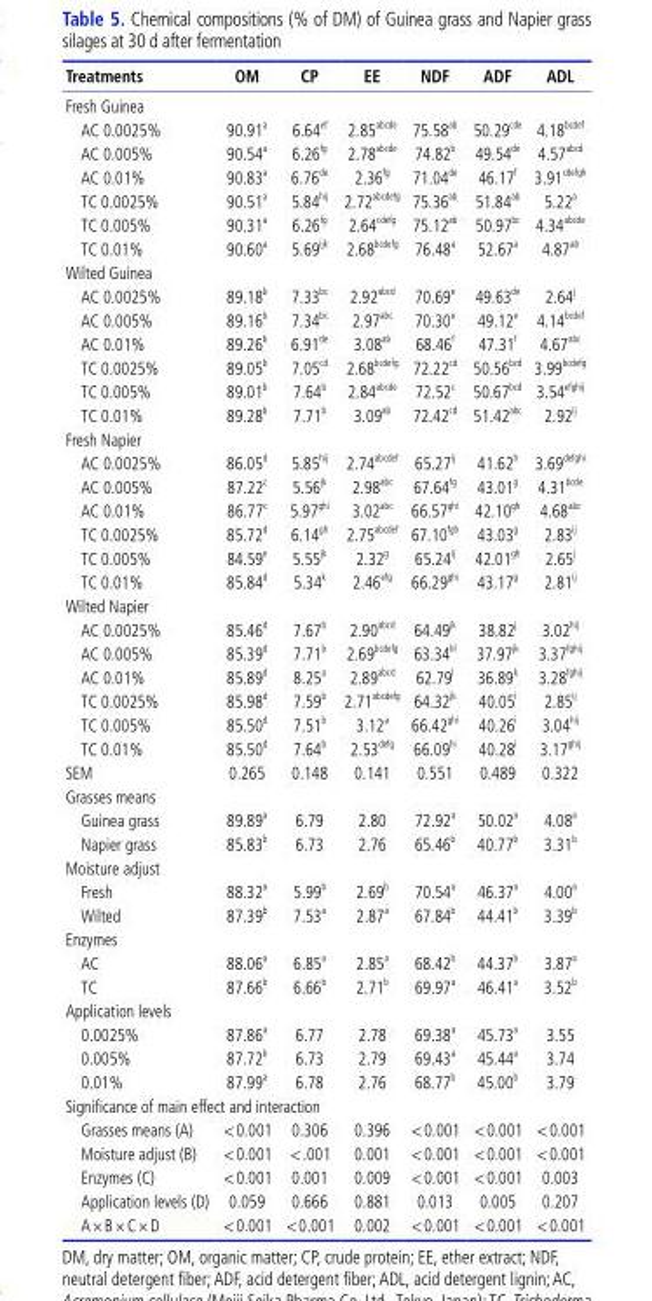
<table><thead><tr><td>Treatments</td><td>OM</td><td>CP</td><td>EE</td><td>NDF</td><td>ADF</td><td>ADL</td></tr></thead><tbody><tr><td colspan="7">Fresh Guinea</td></tr><tr><td>AC 0.0025%</td><td>90.91 <sup>a</sup></td><td>6.64 <sup>ef</sup></td><td>2.85 abcde</td><td>75.58 <sup>ab</sup></td><td>50.29 cde</td><td>4.18 bcdef</td></tr><tr><td>AC 0.005%</td><td>90.54 <sup>a</sup></td><td>6.26 <sup>fg</sup></td><td>2.78 abcde</td><td>74.82 <sup>b</sup></td><td>49.54 <sup>de</sup></td><td>4.57 abcd</td></tr><tr><td>AC 0.01%</td><td>90.83 <sup>a</sup></td><td>6.76 <sup>de</sup></td><td>2.36 <sup>fg</sup></td><td>71.04 <sup>de</sup></td><td>46.17 <sup>f</sup></td><td>3.91 cdefgh</td></tr><tr><td>TC 0.0025%</td><td>90.51 <sup>a</sup></td><td>5.84 hij</td><td>2.72 abcdefg</td><td>75.36 <sup>ab</sup></td><td>51.84 <sup>ab</sup></td><td>5.22 <sup>a</sup></td></tr><tr><td>TC 0.005%</td><td>90.31 <sup>a</sup></td><td>6.26 <sup>fg</sup></td><td>2.64 cdefg</td><td>75.12 <sup>ab</sup></td><td>50.97 <sup>bc</sup></td><td>4.34 abcde</td></tr><tr><td>TC 0.01%</td><td>90.60 <sup>a</sup></td><td>5.69 ijk</td><td>2.68 bcdefg</td><td>76.48 <sup>a</sup></td><td>52.67 <sup>a</sup></td><td>4.87 <sup>ab</sup></td></tr><tr><td colspan="7">Wilted Guinea</td></tr><tr><td>AC 0.0025%</td><td>89.18 <sup>b</sup></td><td>7.33 <sup>bc</sup></td><td>2.92 abcd</td><td>70.69 <sup>e</sup></td><td>49.63 <sup>de</sup></td><td>2.64 <sup>j</sup></td></tr><tr><td>AC 0.005%</td><td>89.16 <sup>b</sup></td><td>7.34 <sup>bc</sup></td><td>2.97 abc</td><td>70.30 <sup>e</sup></td><td>49.12 <sup>e</sup></td><td>4.14 bcdef</td></tr><tr><td>AC 0.01%</td><td>89.26 <sup>b</sup></td><td>6.91 <sup>de</sup></td><td>3.08 <sup>ab</sup></td><td>68.46 <sup>f</sup></td><td>47.31 <sup>f</sup></td><td>4.67 abc</td></tr><tr><td>TC 0.0025%</td><td>89.05 <sup>b</sup></td><td>7.05 <sup>cd</sup></td><td>2.68 bcdefg</td><td>72.22 <sup>cd</sup></td><td>50.56 bcd</td><td>3.99 bcdefg</td></tr><tr><td>TC 0.005%</td><td>89.01 <sup>b</sup></td><td>7.64 <sup>b</sup></td><td>2.84 abcde</td><td>72.52 <sup>c</sup></td><td>50.67 bcd</td><td>3.54 efghij</td></tr><tr><td>TC 0.01%</td><td>89.28 <sup>b</sup></td><td>7.71 <sup>b</sup></td><td>3.09 <sup>ab</sup></td><td>72.42 <sup>cd</sup></td><td>51.42 abc</td><td>2.92 <sup>ij</sup></td></tr><tr><td colspan="7">Fresh Napier</td></tr><tr><td>AC 0.0025%</td><td>86.05 <sup>d</sup></td><td>5.85 hij</td><td>2.74 abcdef</td><td>65.27 <sup>ij</sup></td><td>41.62 <sup>h</sup></td><td>3.69 defghi</td></tr><tr><td>AC 0.005%</td><td>87.22 <sup>c</sup></td><td>5.56 <sup>jk</sup></td><td>2.98 abc</td><td>67.64 <sup>fg</sup></td><td>43.01 <sup>g</sup></td><td>4.31 bcde</td></tr><tr><td>AC 0.01%</td><td>86.77 <sup>c</sup></td><td>5.97 ghi</td><td>3.02 abc</td><td>66.57 ghi</td><td>42.10 <sup>gh</sup></td><td>4.68 abc</td></tr><tr><td>TC 0.0025%</td><td>85.72 <sup>d</sup></td><td>6.14 <sup>gh</sup></td><td>2.75 abcdef</td><td>67.10 fgh</td><td>43.03 <sup>g</sup></td><td>2.83 <sup>ij</sup></td></tr><tr><td>TC 0.005%</td><td>84.59 <sup>e</sup></td><td>5.55 <sup>jk</sup></td><td>2.32 <sup>g</sup></td><td>65.24 <sup>ij</sup></td><td>42.01 <sup>gh</sup></td><td>2.65 <sup>j</sup></td></tr><tr><td>TC 0.01%</td><td>85.84 <sup>d</sup></td><td>5.34 <sup>k</sup></td><td>2.46 efg</td><td>66.29 ghi</td><td>43.17 <sup>g</sup></td><td>2.81 <sup>ij</sup></td></tr><tr><td colspan="7">Wilted Napier</td></tr><tr><td>AC 0.0025%</td><td>85.46 <sup>d</sup></td><td>7.67 <sup>b</sup></td><td>2.90 abcd</td><td>64.49 <sup>jk</sup></td><td>38.82 <sup>j</sup></td><td>3.02 hij</td></tr><tr><td>AC 0.005%</td><td>85.39 <sup>d</sup></td><td>7.71 <sup>b</sup></td><td>2.69 bcdefg</td><td>63.34 <sup>kl</sup></td><td>37.97 <sup>jk</sup></td><td>3.37 fghij</td></tr><tr><td>AC 0.01%</td><td>85.89 <sup>d</sup></td><td>8.25 <sup>a</sup></td><td>2.89 abcd</td><td>62.79 <sup>l</sup></td><td>36.89 <sup>k</sup></td><td>3.28 fghij</td></tr><tr><td>TC 0.0025%</td><td>85.98 <sup>d</sup></td><td>7.59 <sup>b</sup></td><td>2.71 abcdefg</td><td>64.32 <sup>jk</sup></td><td>40.05 <sup>i</sup></td><td>2.85 <sup>ij</sup></td></tr><tr><td>TC 0.005%</td><td>85.50 <sup>d</sup></td><td>7.51 <sup>b</sup></td><td>3.12 <sup>a</sup></td><td>66.42 ghi</td><td>40.26 <sup>i</sup></td><td>3.04 hij</td></tr><tr><td>TC 0.01%</td><td>85.50 <sup>d</sup></td><td>7.64 <sup>b</sup></td><td>2.53 defg</td><td>66.09 <sup>hi</sup></td><td>40.28 <sup>i</sup></td><td>3.17 ghij</td></tr><tr><td>SEM</td><td>0.265</td><td>0.148</td><td>0.141</td><td>0.551</td><td>0.489</td><td>0.322</td></tr><tr><td colspan="7">Grasses means</td></tr><tr><td>Guinea grass</td><td>89.89 <sup>a</sup></td><td>6.79</td><td>2.80</td><td>72.92 <sup>a</sup></td><td>50.02 <sup>a</sup></td><td>4.08 <sup>a</sup></td></tr><tr><td>Napier grass</td><td>85.83 <sup>b</sup></td><td>6.73</td><td>2.76</td><td>65.46 <sup>b</sup></td><td>40.77 <sup>b</sup></td><td>3.31 <sup>b</sup></td></tr><tr><td colspan="7">Moisture adjust</td></tr><tr><td>Fresh</td><td>88.32 <sup>a</sup></td><td>5.99 <sup>b</sup></td><td>2.69 <sup>b</sup></td><td>70.54 <sup>a</sup></td><td>46.37 <sup>a</sup></td><td>4.00 <sup>a</sup></td></tr><tr><td>Wilted</td><td>87.39 <sup>b</sup></td><td>7.53 <sup>a</sup></td><td>2.87 <sup>a</sup></td><td>67.84 <sup>b</sup></td><td>44.41 <sup>b</sup></td><td>3.39 <sup>b</sup></td></tr><tr><td colspan="7">Enzymes</td></tr><tr><td>AC</td><td>88.06 <sup>a</sup></td><td>6.85 <sup>a</sup></td><td>2.85 <sup>a</sup></td><td>68.42 <sup>b</sup></td><td>44.37 <sup>b</sup></td><td>3.87 <sup>a</sup></td></tr><tr><td>TC</td><td>87.66 <sup>b</sup></td><td>6.66 <sup>b</sup></td><td>2.71 <sup>b</sup></td><td>69.97 <sup>a</sup></td><td>46.41 <sup>a</sup></td><td>3.52 <sup>b</sup></td></tr><tr><td colspan="7">Application levels</td></tr><tr><td>0.0025%</td><td>87.86 <sup>a</sup></td><td>6.77</td><td>2.78</td><td>69.38 <sup>a</sup></td><td>45.73 <sup>a</sup></td><td>3.55</td></tr><tr><td>0.005%</td><td>87.72 <sup>b</sup></td><td>6.73</td><td>2.79</td><td>69.43 <sup>a</sup></td><td>45.44 <sup>a</sup></td><td>3.74</td></tr><tr><td>0.01%</td><td>87.99 <sup>a</sup></td><td>6.78</td><td>2.76</td><td>68.77 <sup>b</sup></td><td>45.00 <sup>b</sup></td><td>3.79</td></tr><tr><td colspan="7">Significance of main effect and interaction</td></tr><tr><td>Grasses means (A)</td><td>&lt;0.001</td><td>0.306</td><td>0.396</td><td>&lt;0.001</td><td>&lt;0.001</td><td>&lt;0.001</td></tr><tr><td>Moisture adjust (B)</td><td>&lt;0.001</td><td>&lt;.001</td><td>0.001</td><td>&lt;0.001</td><td>&lt;0.001</td><td>&lt;0.001</td></tr><tr><td>Enzymes (C)</td><td>&lt;0.001</td><td>0.001</td><td>0.009</td><td>&lt;0.001</td><td>&lt;0.001</td><td>0.003</td></tr><tr><td>Application levels (D)</td><td>0.059</td><td>0.666</td><td>0.881</td><td>0.013</td><td>0.005</td><td>0.207</td></tr><tr><td>A×B×C×D</td><td>&lt;0.001</td><td>&lt;0.001</td><td>0.002</td><td>&lt;0.001</td><td>&lt;0.001</td><td>&lt;0.001</td></tr></tbody></table>